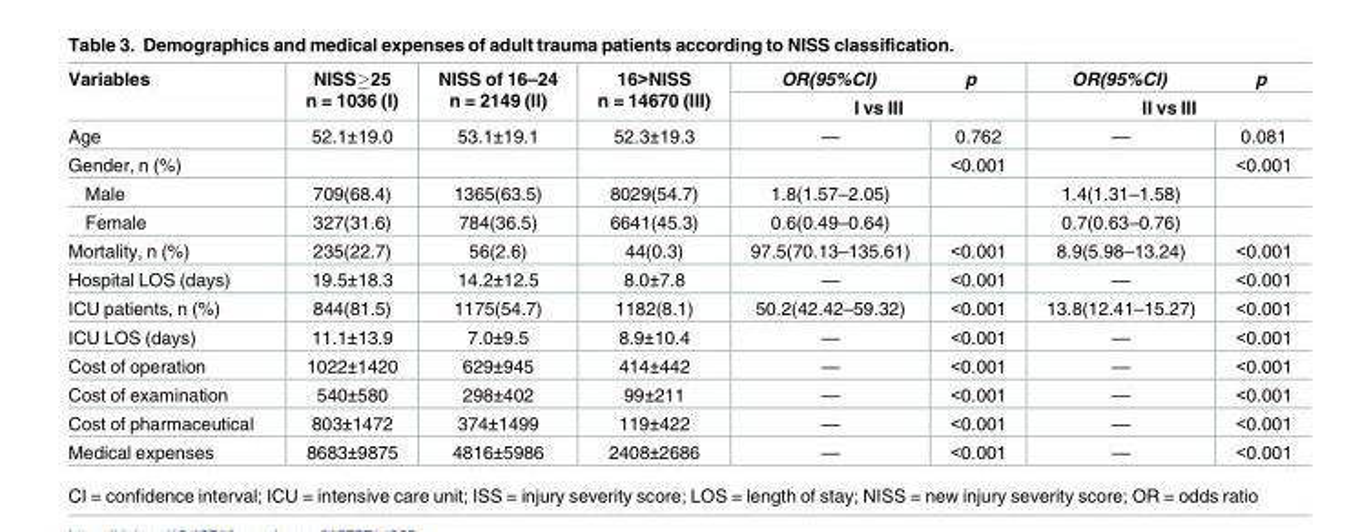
<table><thead><tr><td rowspan="3">Variables Age</td><td rowspan="3">NISS≥25 n = 1036 (I) 52.1±19.0</td><td rowspan="3">NISS of 16–24 n = 2149 (II) 53.1±19.1</td><td rowspan="3">16&gt;NISS n = 14670 (III) 52.3±19.3</td><td rowspan="2" colspan="2">OR(95%CI) p I vs III</td><td rowspan="2" colspan="2">OR(95%CI) p II vs III</td></tr><tr></tr><tr><td>—</td><td>0.762</td><td>—</td><td>0.081</td></tr></thead><tbody><tr><td>Gender, n (%)</td><td></td><td></td><td></td><td></td><td>&lt;0.001</td><td></td><td>&lt;0.001</td></tr><tr><td>Male</td><td>709(68.4)</td><td>1365(63.5)</td><td>8029(54.7)</td><td>1.8(1.57–2.05)</td><td></td><td>1.4(1.31–1.58)</td><td></td></tr><tr><td>Female</td><td>327(31.6)</td><td>784(36.5)</td><td>6641(45.3)</td><td>0.6(0.49–0.64)</td><td></td><td>0.7(0.63–0.76)</td><td></td></tr><tr><td>Mortality, n (%)</td><td>235(22.7)</td><td>56(2.6)</td><td>44(0.3)</td><td>97.5(70.13–135.61)</td><td>&lt;0.001</td><td>8.9(5.98–13.24)</td><td>&lt;0.001</td></tr><tr><td>Hospital LOS (days)</td><td>19.5±18.3</td><td>14.2±12.5</td><td>8.0±7.8</td><td>—</td><td>&lt;0.001</td><td>—</td><td>&lt;0.001</td></tr><tr><td>ICU patients, n (%)</td><td>844(81.5)</td><td>1175(54.7)</td><td>1182(8.1)</td><td>50.2(42.42–59.32)</td><td>&lt;0.001</td><td>13.8(12.41–15.27)</td><td>&lt;0.001</td></tr><tr><td>ICU LOS (days)</td><td>11.1±13.9</td><td>7.0±9.5</td><td>8.9±10.4</td><td>—</td><td>&lt;0.001</td><td>—</td><td>&lt;0.001</td></tr><tr><td>Cost of operation</td><td>1022±1420</td><td>629±945</td><td>414±442</td><td>—</td><td>&lt;0.001</td><td>—</td><td>&lt;0.001</td></tr><tr><td>Cost of examination</td><td>540±580</td><td>298±402</td><td>99±211</td><td>—</td><td>&lt;0.001</td><td>—</td><td>&lt;0.001</td></tr><tr><td>Cost of pharmaceutical</td><td>803±1472</td><td>374±1499</td><td>119±422</td><td>—</td><td>&lt;0.001</td><td>—</td><td>&lt;0.001</td></tr><tr><td>Medical expenses</td><td>8683±9875</td><td>4816±5986</td><td>2408±2686</td><td>—</td><td>&lt;0.001</td><td>—</td><td>&lt;0.001</td></tr></tbody></table>